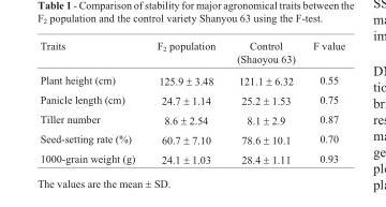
<table><thead><tr><td>Traits</td><td>F<sub>2</sub> population</td><td>Control (Shaoyou 63)</td><td>F value</td></tr></thead><tbody><tr><td>Plant height (cm)</td><td>125.9 ± 3.48</td><td>121.1 ± 6.32</td><td>0.55</td></tr><tr><td>Panicle length (cm)</td><td>24.7 ± 1.14</td><td>25.2 ± 1.53</td><td>0.75</td></tr><tr><td>Tiller number</td><td>8.6 ± 2.54</td><td>8.1 ± 2.9</td><td>0.87</td></tr><tr><td>Seed-setting rate (%)</td><td>60.7 ± 7.10</td><td>78.6 ± 10.1</td><td>0.70</td></tr><tr><td>1000-grain weight (g)</td><td>24.1 ± 1.03</td><td>28.4 ± 1.11</td><td>0.93</td></tr></tbody></table>